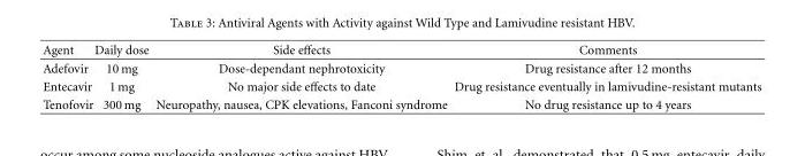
<table><thead><tr><td>Agent</td><td>Daily dose</td><td>Side effects</td><td>Comments</td></tr></thead><tbody><tr><td>Adefovir</td><td>10 mg</td><td>Dose-dependant nephrotoxicity</td><td>Drug resistance after 12 months</td></tr><tr><td>Entecavir</td><td>1 mg</td><td>No major side effects to date</td><td>Drug resistance eventually in lamivudine-resistant mutants</td></tr><tr><td>Tenofovir</td><td>300 mg</td><td>Neuropathy, nausea, CPK elevations, Fanconi syndrome</td><td>No drug resistance up to 4 years</td></tr></tbody></table>